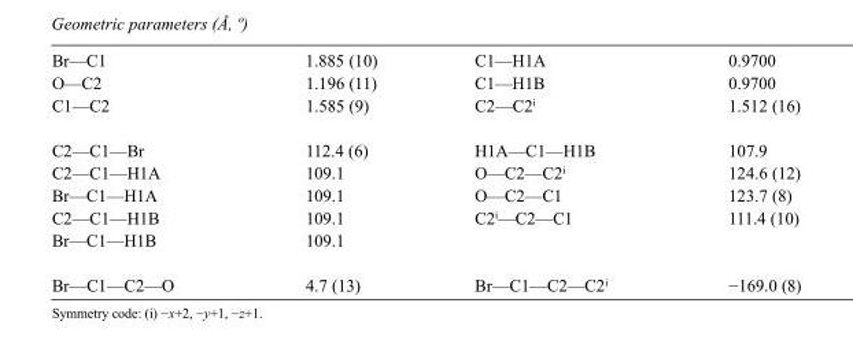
<table><tbody><tr><td>Br—C1</td><td>1.885 (10)</td><td>C1—H1A</td><td>0.9700</td></tr><tr><td>O—C2</td><td>1.196 (11)</td><td>C1—H1B</td><td>0.9700</td></tr><tr><td>C1—C2</td><td>1.585 (9)</td><td>C2—C2<sup>i</sup></td><td>1.512 (16)</td></tr><tr><td>C2—C1—Br</td><td>112.4 (6)</td><td>H1A—C1—H1B</td><td>107.9</td></tr><tr><td>C2—C1—H1A</td><td>109.1</td><td>O—C2—C2<sup>i</sup></td><td>124.6 (12)</td></tr><tr><td>Br—C1—H1A</td><td>109.1</td><td>O—C2—C1</td><td>123.7 (8)</td></tr><tr><td>C2—C1—H1B</td><td>109.1</td><td>C2<sup>i</sup>—C2—C1</td><td>111.4 (10)</td></tr><tr><td>Br—C1—H1B</td><td>109.1</td><td></td><td></td></tr><tr><td>Br—C1—C2—O</td><td>4.7 (13)</td><td>Br—C1—C2—C2<sup>i</sup></td><td>−169.0 (8)</td></tr></tbody></table>